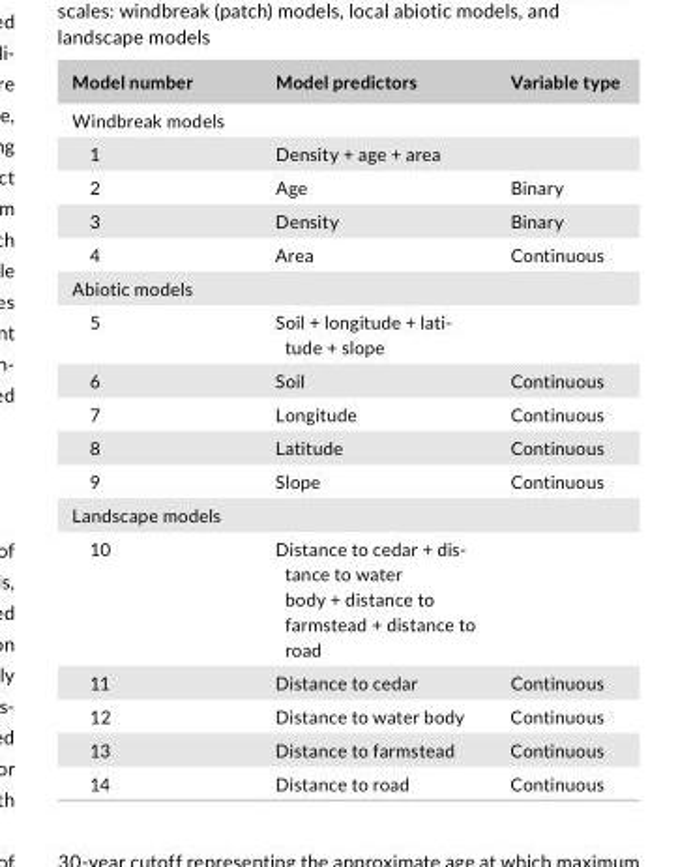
<table><thead><tr><td>Model number</td><td>Model predictors</td><td>Variable type</td></tr></thead><tbody><tr><td colspan="3">Windbreak models</td></tr><tr><td>1</td><td>Density + age + area</td><td></td></tr><tr><td>2</td><td>Age</td><td>Binary</td></tr><tr><td>3</td><td>Density</td><td>Binary</td></tr><tr><td>4</td><td>Area</td><td>Continuous</td></tr><tr><td colspan="3">Abiotic models</td></tr><tr><td>5</td><td>Soil + longitude + lati- tude + slope</td><td></td></tr><tr><td>6</td><td>Soil</td><td>Continuous</td></tr><tr><td>7</td><td>Longitude</td><td>Continuous</td></tr><tr><td>8</td><td>Latitude</td><td>Continuous</td></tr><tr><td>9</td><td>Slope</td><td>Continuous</td></tr><tr><td colspan="3">Landscape models</td></tr><tr><td>10</td><td>Distance to cedar + dis- tance to water body + distance to farmstead + distance to road</td><td></td></tr><tr><td>11</td><td>Distance to cedar</td><td>Continuous</td></tr><tr><td>12</td><td>Distance to water body</td><td>Continuous</td></tr><tr><td>13</td><td>Distance to farmstead</td><td>Continuous</td></tr><tr><td>14</td><td>Distance to road</td><td>Continuous</td></tr></tbody></table>